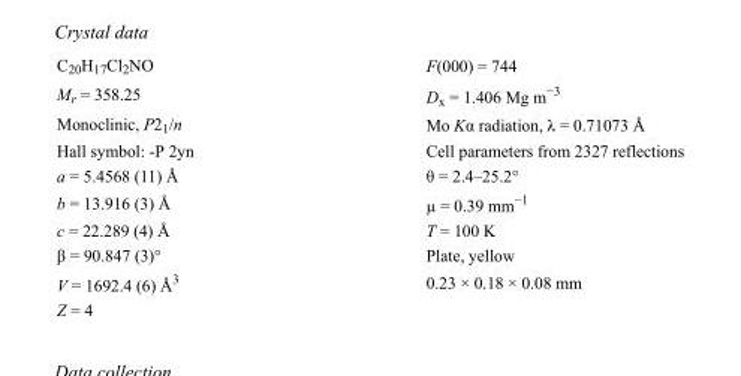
<table><tbody><tr><td>C<sub>20</sub>H<sub>17</sub>Cl<sub>2</sub>NO</td><td>F(000) = 744</td></tr><tr><td>M<sub>r</sub> = 358.25</td><td>D<sub>x</sub> = 1.406 Mg m<sup>−3</sup></td></tr><tr><td>Monoclinic, P2<sub>1</sub>/n</td><td>Mo Kα radiation, λ = 0.71073 Å</td></tr><tr><td>Hall symbol: -P 2yn</td><td>Cell parameters from 2327 reflections</td></tr><tr><td>a = 5.4568 (11) Å</td><td>θ = 2.4–25.2°</td></tr><tr><td>b = 13.916 (3) Å</td><td>µ = 0.39 mm<sup>−1</sup></td></tr><tr><td>c = 22.289 (4) Å</td><td>T = 100 K</td></tr><tr><td>β = 90.847 (3)°</td><td>Plate, yellow</td></tr><tr><td>V = 1692.4 (6) Å<sup>3</sup></td><td>0.23 × 0.18 × 0.08 mm</td></tr><tr><td>Z = 4</td><td></td></tr></tbody></table>